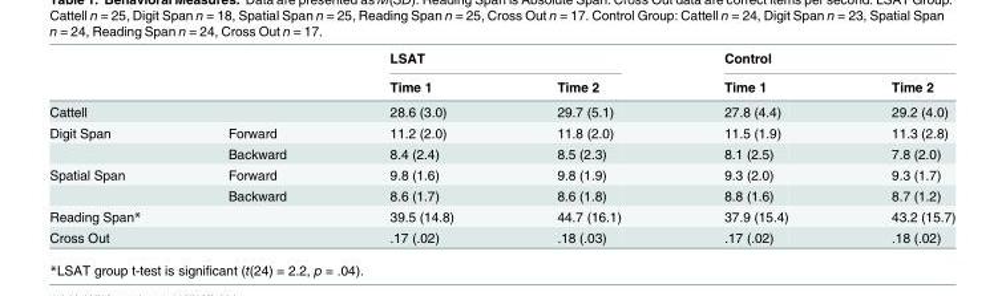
<table><thead><tr><td rowspan="2"></td><td rowspan="2"></td><td colspan="2">LSAT</td><td colspan="2">Control</td></tr><tr><td>Time 1</td><td>Time 2</td><td>Time 1</td><td>Time 2</td></tr></thead><tbody><tr><td colspan="2">Cattell</td><td>28.6 (3.0)</td><td>29.7 (5.1)</td><td>27.8 (4.4)</td><td>29.2 (4.0)</td></tr><tr><td rowspan="2">Digit Span</td><td>Forward</td><td>11.2 (2.0)</td><td>11.8 (2.0)</td><td>11.5 (1.9)</td><td>11.3 (2.8)</td></tr><tr><td>Backward</td><td>8.4 (2.4)</td><td>8.5 (2.3)</td><td>8.1 (2.5)</td><td>7.8 (2.0)</td></tr><tr><td rowspan="2">Spatial Span</td><td>Forward</td><td>9.8 (1.6)</td><td>9.8 (1.9)</td><td>9.3 (2.0)</td><td>9.3 (1.7)</td></tr><tr><td>Backward</td><td>8.6 (1.7)</td><td>8.6 (1.8)</td><td>8.8 (1.6)</td><td>8.7 (1.2)</td></tr><tr><td colspan="2">Reading Span*</td><td>39.5 (14.8)</td><td>44.7 (16.1)</td><td>37.9 (15.4)</td><td>43.2 (15.7)</td></tr><tr><td colspan="2">Cross Out</td><td>.17 (.02)</td><td>.18 (.03)</td><td>.17 (.02)</td><td>.18 (.02)</td></tr></tbody></table>